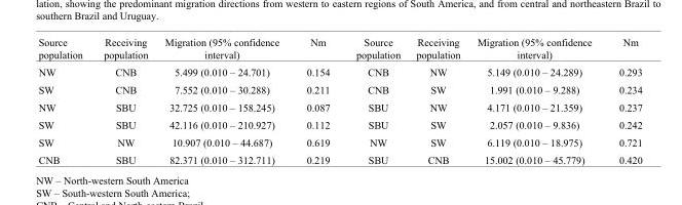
<table><thead><tr><td>Source population</td><td>Receiving population</td><td>Migration (95% confidence interval)</td><td>Nm</td><td>Source population</td><td>Receiving population</td><td>Migration (95% confidence interval)</td><td>Nm</td></tr></thead><tbody><tr><td>NW</td><td>CNB</td><td>5.499 (0.010 – 24.701)</td><td>0.154</td><td>CNB</td><td>NW</td><td>5.149 (0.010 – 24.289)</td><td>0.293</td></tr><tr><td>SW</td><td>CNB</td><td>7.552 (0.010 – 30.288)</td><td>0.211</td><td>CNB</td><td>SW</td><td>1.991 (0.010 – 9.288)</td><td>0.234</td></tr><tr><td>NW</td><td>SBU</td><td>32.725 (0.010 – 158.245)</td><td>0.087</td><td>SBU</td><td>NW</td><td>4.171 (0.010 – 21.359)</td><td>0.237</td></tr><tr><td>SW</td><td>SBU</td><td>42.116 (0.010 – 210.927)</td><td>0.112</td><td>SBU</td><td>SW</td><td>2.057 (0.010 – 9.836)</td><td>0.242</td></tr><tr><td>SW</td><td>NW</td><td>10.907 (0.010 – 44.687)</td><td>0.619</td><td>NW</td><td>SW</td><td>6.119 (0.010 – 18.975)</td><td>0.721</td></tr><tr><td>CNB</td><td>SBU</td><td>82.371 (0.010 – 312.711)</td><td>0.219</td><td>SBU</td><td>CNB</td><td>15.002 (0.010 – 45.779)</td><td>0.420</td></tr></tbody></table>